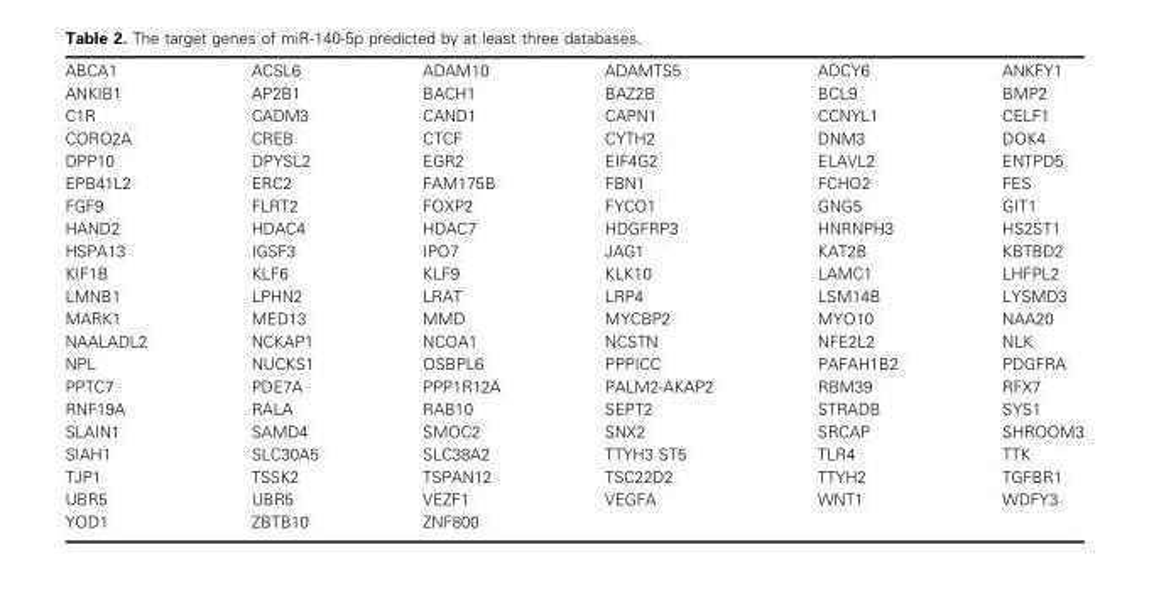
<table><tbody><tr><td>ABCA1</td><td>ACSL6</td><td>ADAM10</td><td>ADAMTS5</td><td>ADCY6</td><td>ANKFY1</td></tr><tr><td>ANKIB1</td><td>AP2B1</td><td>BACH1</td><td>BAZ2B</td><td>BCL9</td><td>BMP2</td></tr><tr><td>C1R</td><td>CADM3</td><td>CAND1</td><td>CAPN1</td><td>CCNYL1</td><td>CELF1</td></tr><tr><td>CORO2A</td><td>CREB</td><td>CTCF</td><td>CYTH2</td><td>DNM3</td><td>DOK4</td></tr><tr><td>DPP10</td><td>DPYSL2</td><td>EGR2</td><td>EIF4G2</td><td>ELAVL2</td><td>ENTPD5</td></tr><tr><td>EPB41L2</td><td>ERC2</td><td>FAM175B</td><td>FBN1</td><td>FCHO2</td><td>FES</td></tr><tr><td>FGF9</td><td>FLRT2</td><td>FOXP2</td><td>FYCO1</td><td>GNG5</td><td>GIT1</td></tr><tr><td>HAND2</td><td>HDAC4</td><td>HDAC7</td><td>HDGFRP3</td><td>HNRNPH3</td><td>HS2ST1</td></tr><tr><td>HSPA13</td><td>IGSF3</td><td>IPO7</td><td>JAG1</td><td>KAT2B</td><td>KBTBD2</td></tr><tr><td>KIF1B</td><td>KLF6</td><td>KLF9</td><td>KLK10</td><td>LAMC1</td><td>LHFPL2</td></tr><tr><td>LMNB1</td><td>LPHN2</td><td>LRAT</td><td>LRP4</td><td>LSM14B</td><td>LYSMD3</td></tr><tr><td>MARK1</td><td>MED13</td><td>MMD</td><td>MYCBP2</td><td>MYO10</td><td>NAA20</td></tr><tr><td>NAALADL2</td><td>NCKAP1</td><td>NCOA1</td><td>NCSTN</td><td>NFE2L2</td><td>NLK</td></tr><tr><td>NPL</td><td>NUCKS1</td><td>OSBPL6</td><td>PPPICC</td><td>PAFAH1B2</td><td>PDGFRA</td></tr><tr><td>PPTC7</td><td>PDE7A</td><td>PPP1R12A</td><td>PALM2-AKAP2</td><td>RBM39</td><td>RFX7</td></tr><tr><td>RNF19A</td><td>RALA</td><td>RAB10</td><td>SEPT2</td><td>STRADB</td><td>SYS1</td></tr><tr><td>SLAIN1</td><td>SAMD4</td><td>SMOC2</td><td>SNX2</td><td>SRCAP</td><td>SHROOM3</td></tr><tr><td>SIAH1</td><td>SLC30A5</td><td>SLC38A2</td><td>TTYH3 ST5</td><td>TLR4</td><td>TTK</td></tr><tr><td>TJP1</td><td>TSSK2</td><td>TSPAN12</td><td>TSC22D2</td><td>TTYH2</td><td>TGFBR1</td></tr><tr><td>UBR5</td><td>UBR5</td><td>VEZF1</td><td>VEGFA</td><td>WNT1</td><td>WDFY3</td></tr><tr><td>YOD1</td><td>ZBTB10</td><td>ZNF800</td><td></td><td></td><td></td></tr></tbody></table>